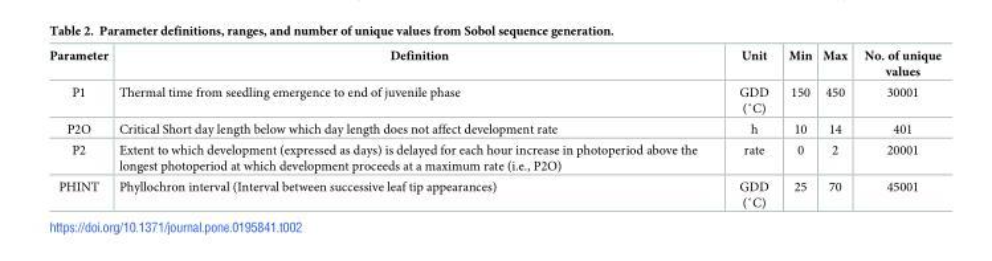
<table><thead><tr><td>Parameter</td><td>Definition</td><td>Unit</td><td>Min</td><td>Max</td><td>No. of unique values</td></tr></thead><tbody><tr><td>P1</td><td>Thermal time from seedling emergence to end of juvenile phase</td><td>GDD (˚C)</td><td>150</td><td>450</td><td>30001</td></tr><tr><td>P2O</td><td>Critical Short day length below which day length does not affect development rate</td><td>h</td><td>10</td><td>14</td><td>401</td></tr><tr><td>P2</td><td>Extent to which development (expressed as days) is delayed for each hour increase in photoperiod above the longest photoperiod at which development proceeds at a maximum rate (i.e., P2O)</td><td>rate</td><td>0</td><td>2</td><td>20001</td></tr><tr><td>PHINT</td><td>Phyllochron interval (Interval between successive leaf tip appearances)</td><td>GDD (˚C)</td><td>25</td><td>70</td><td>45001</td></tr></tbody></table>